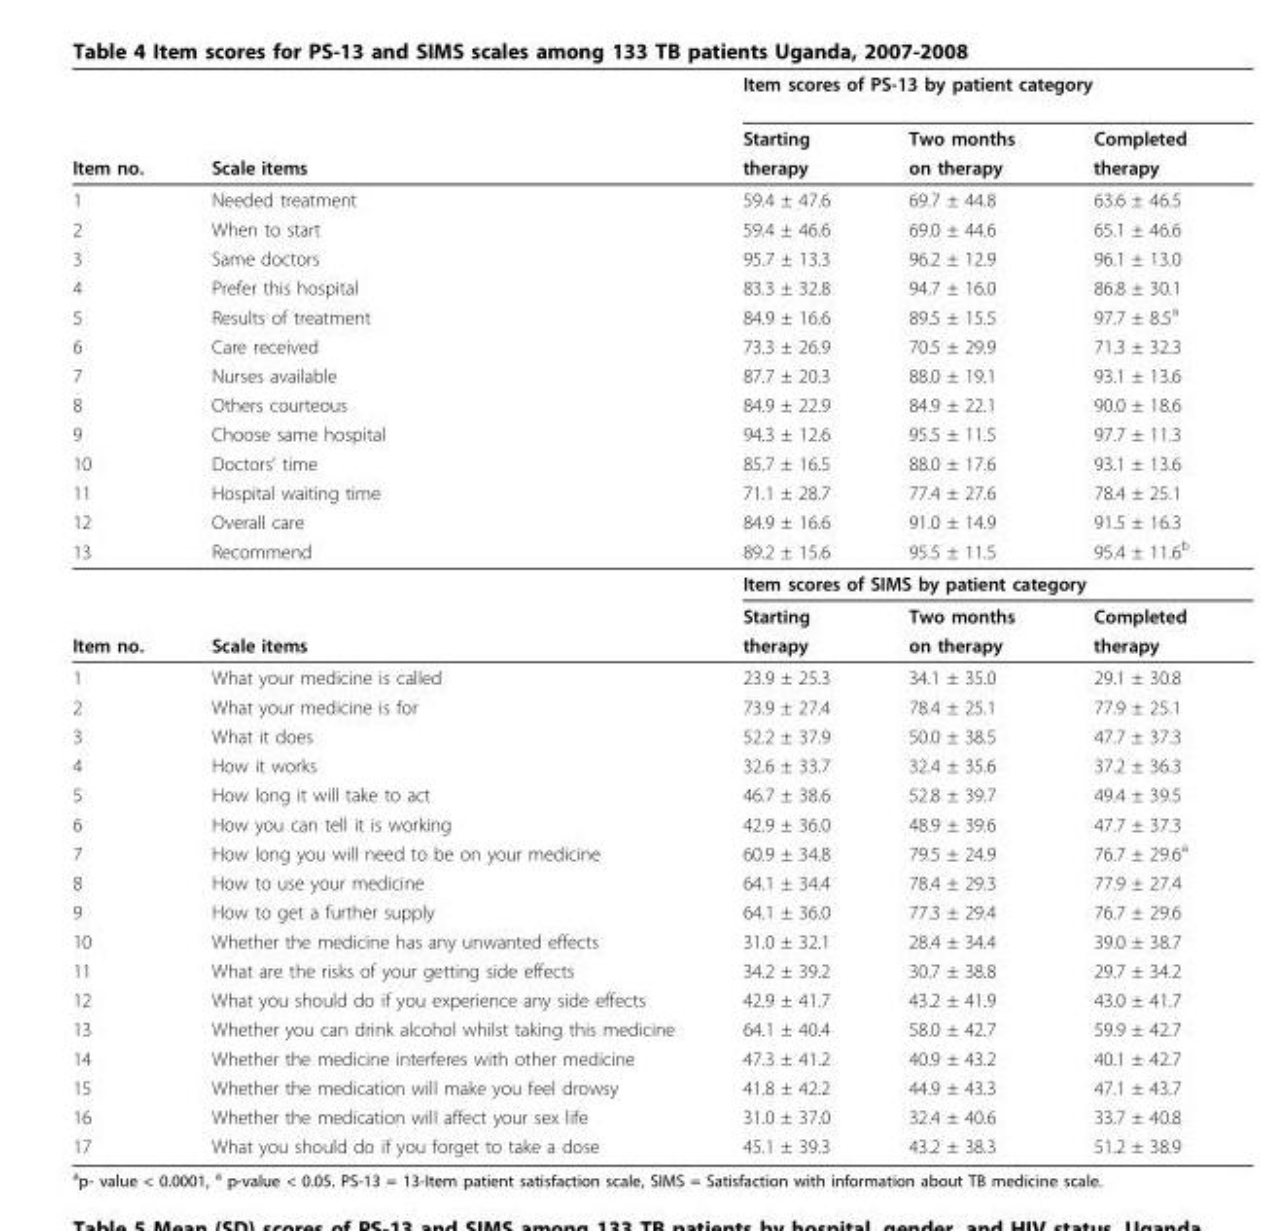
<table><thead><tr><td rowspan="3">Item no.</td><td rowspan="3">Scale items</td><td colspan="3">Item scores of PS-13 by patient category</td></tr><tr><td rowspan="2">Starting therapy</td><td rowspan="2">Two months on therapy</td><td rowspan="2">Completed therapy</td></tr><tr></tr></thead><tbody><tr><td>1</td><td>Needed treatment</td><td>59.4 ± 47.6</td><td>69.7 ± 44.8</td><td>63.6 ± 46.5</td></tr><tr><td>2</td><td>When to start</td><td>59.4 ± 46.6</td><td>69.0 ± 44.6</td><td>65.1 ± 46.6</td></tr><tr><td>3</td><td>Same doctors</td><td>95.7 ± 13.3</td><td>96.2 ± 12.9</td><td>96.1 ± 13.0</td></tr><tr><td>4</td><td>Prefer this hospital</td><td>83.3 ± 32.8</td><td>94.7 ± 16.0</td><td>86.8 ± 30.1</td></tr><tr><td>5</td><td>Results of treatment</td><td>84.9 ± 16.6</td><td>89.5 ± 15.5</td><td>97.7 ± 8.5<sup>a</sup></td></tr><tr><td>6</td><td>Care received</td><td>73.3 ± 26.9</td><td>70.5 ± 29.9</td><td>71.3 ± 32.3</td></tr><tr><td>7</td><td>Nurses available</td><td>87.7 ± 20.3</td><td>88.0 ± 19.1</td><td>93.1 ± 13.6</td></tr><tr><td>8</td><td>Others courteous</td><td>84.9 ± 22.9</td><td>84.9 ± 22.1</td><td>90.0 ± 18.6</td></tr><tr><td>9</td><td>Choose same hospital</td><td>94.3 ± 12.6</td><td>95.5 ± 11.5</td><td>97.7 ± 11.3</td></tr><tr><td>10</td><td>Doctors’ time</td><td>85.7 ± 16.5</td><td>88.0 ± 17.6</td><td>93.1 ± 13.6</td></tr><tr><td>11</td><td>Hospital waiting time</td><td>71.1 ± 28.7</td><td>77.4 ± 27.6</td><td>78.4 ± 25.1</td></tr><tr><td>12</td><td>Overall care</td><td>84.9 ± 16.6</td><td>91.0 ± 14.9</td><td>91.5 ± 16.3</td></tr><tr><td rowspan="3">13</td><td>Recommend</td><td>89.2 ± 15.6</td><td>95.5 ± 11.5</td><td>95.4 ± 11.6<sup>b</sup></td></tr><tr><td></td><td colspan="3">Item scores of SIMS by patient category</td></tr><tr><td></td><td>Starting</td><td>Two months</td><td>Completed</td></tr><tr><td>Item no.</td><td>Scale items</td><td>therapy</td><td>on therapy</td><td>therapy</td></tr><tr><td>1</td><td>What your medicine is called</td><td>23.9 ± 25.3</td><td>34.1 ± 35.0</td><td>29.1 ± 30.8</td></tr><tr><td>2</td><td>What your medicine is for</td><td>73.9 ± 27.4</td><td>78.4 ± 25.1</td><td>77.9 ± 25.1</td></tr><tr><td>3</td><td>What it does</td><td>52.2 ± 37.9</td><td>50.0 ± 38.5</td><td>47.7 ± 37.3</td></tr><tr><td>4</td><td>How it works</td><td>32.6 ± 33.7</td><td>32.4 ± 35.6</td><td>37.2 ± 36.3</td></tr><tr><td>5</td><td>How long it will take to act</td><td>46.7 ± 38.6</td><td>52.8 ± 39.7</td><td>49.4 ± 39.5</td></tr><tr><td>6</td><td>How you can tell it is working</td><td>42.9 ± 36.0</td><td>48.9 ± 39.6</td><td>47.7 ± 37.3</td></tr><tr><td>7</td><td>How long you will need to be on your medicine</td><td>60.9 ± 34.8</td><td>79.5 ± 24.9</td><td>76.7 ± 29.6<sup>a</sup></td></tr><tr><td>8</td><td>How to use your medicine</td><td>64.1 ± 34.4</td><td>78.4 ± 29.3</td><td>77.9 ± 27.4</td></tr><tr><td>9</td><td>How to get a further supply</td><td>64.1 ± 36.0</td><td>77.3 ± 29.4</td><td>76.7 ± 29.6</td></tr><tr><td>10</td><td>Whether the medicine has any unwanted effects</td><td>31.0 ± 32.1</td><td>28.4 ± 34.4</td><td>39.0 ± 38.7</td></tr><tr><td>11</td><td>What are the risks of your getting side effects</td><td>34.2 ± 39.2</td><td>30.7 ± 38.8</td><td>29.7 ± 34.2</td></tr><tr><td>12</td><td>What you should do if you experience any side effects</td><td>42.9 ± 41.7</td><td>43.2 ± 41.9</td><td>43.0 ± 41.7</td></tr><tr><td>13</td><td>Whether you can drink alcohol whilst taking this medicine</td><td>64.1 ± 40.4</td><td>58.0 ± 42.7</td><td>59.9 ± 42.7</td></tr><tr><td>14</td><td>Whether the medicine interferes with other medicine</td><td>47.3 ± 41.2</td><td>40.9 ± 43.2</td><td>40.1 ± 42.7</td></tr><tr><td>15</td><td>Whether the medication will make you feel drowsy</td><td>41.8 ± 42.2</td><td>44.9 ± 43.3</td><td>47.1 ± 43.7</td></tr><tr><td>16</td><td>Whether the medication will affect your sex life</td><td>31.0 ± 37.0</td><td>32.4 ± 40.6</td><td>33.7 ± 40.8</td></tr><tr><td>17</td><td>What you should do if you forget to take a dose</td><td>45.1 ± 39.3</td><td>43.2 ± 38.3</td><td>51.2 ± 38.9</td></tr></tbody></table>